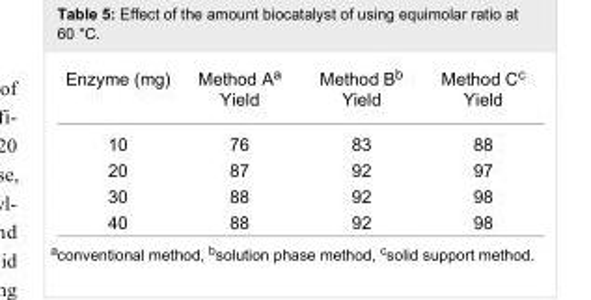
<table><tbody><tr><td>Enzyme (mg)</td><td>Method A<sup>a</sup> Yield</td><td>Method B<sup>b</sup> Yield</td><td>Method C<sup>c</sup> Yield</td></tr><tr><td>10</td><td>76</td><td>83</td><td>88</td></tr><tr><td>20</td><td>87</td><td>92</td><td>97</td></tr><tr><td>30</td><td>88</td><td>92</td><td>98</td></tr><tr><td>40</td><td>88</td><td>92</td><td>98</td></tr></tbody></table>